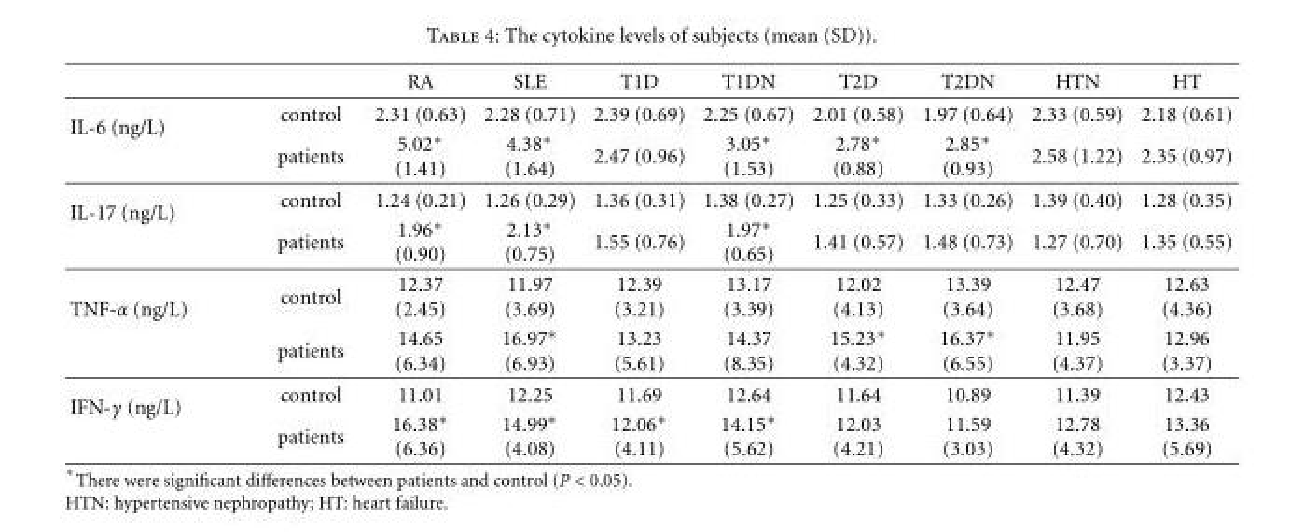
<table><thead><tr><td></td><td></td><td>RA</td><td>SLE</td><td>T1D</td><td>T1DN</td><td>T2D</td><td>T2DN</td><td>HTN</td><td>HT</td></tr></thead><tbody><tr><td rowspan="2">IL-6 (ng/L)</td><td>control</td><td>2.31 (0.63)</td><td>2.28 (0.71)</td><td>2.39 (0.69)</td><td>2.25 (0.67)</td><td>2.01 (0.58)</td><td>1.97 (0.64)</td><td>2.33 (0.59)</td><td>2.18 (0.61)</td></tr><tr><td>patients</td><td>5.02∗ (1.41)</td><td>4.38∗ (1.64)</td><td>2.47 (0.96)</td><td>3.05∗ (1.53)</td><td>2.78∗ (0.88)</td><td>2.85∗ (0.93)</td><td>2.58 (1.22)</td><td>2.35 (0.97)</td></tr><tr><td rowspan="2">IL-17 (ng/L)</td><td>control</td><td>1.24 (0.21)</td><td>1.26 (0.29)</td><td>1.36 (0.31)</td><td>1.38 (0.27)</td><td>1.25 (0.33)</td><td>1.33 (0.26)</td><td>1.39 (0.40)</td><td>1.28 (0.35)</td></tr><tr><td>patients</td><td>1.96∗ (0.90)</td><td>2.13∗ (0.75)</td><td>1.55 (0.76)</td><td>1.97∗ (0.65)</td><td>1.41 (0.57)</td><td>1.48 (0.73)</td><td>1.27 (0.70)</td><td>1.35 (0.55)</td></tr><tr><td rowspan="2">TNF-α (ng/L)</td><td>control</td><td>12.37 (2.45)</td><td>11.97 (3.69)</td><td>12.39 (3.21)</td><td>13.17 (3.39)</td><td>12.02 (4.13)</td><td>13.39 (3.64)</td><td>12.47 (3.68)</td><td>12.63 (4.36)</td></tr><tr><td>patients</td><td>14.65 (6.34)</td><td>16.97∗ (6.93)</td><td>13.23 (5.61)</td><td>14.37 (8.35)</td><td>15.23∗ (4.32)</td><td>16.37∗ (6.55)</td><td>11.95 (4.37)</td><td>12.96 (3.37)</td></tr><tr><td rowspan="2">IFN-γ (ng/L)</td><td>control</td><td>11.01</td><td>12.25</td><td>11.69</td><td>12.64</td><td>11.64</td><td>10.89</td><td>11.39</td><td>12.43</td></tr><tr><td>patients</td><td>16.38∗ (6.36)</td><td>14.99∗ (4.08)</td><td>12.06∗ (4.11)</td><td>14.15∗ (5.62)</td><td>12.03 (4.21)</td><td>11.59 (3.03)</td><td>12.78 (4.32)</td><td>13.36 (5.69)</td></tr></tbody></table>